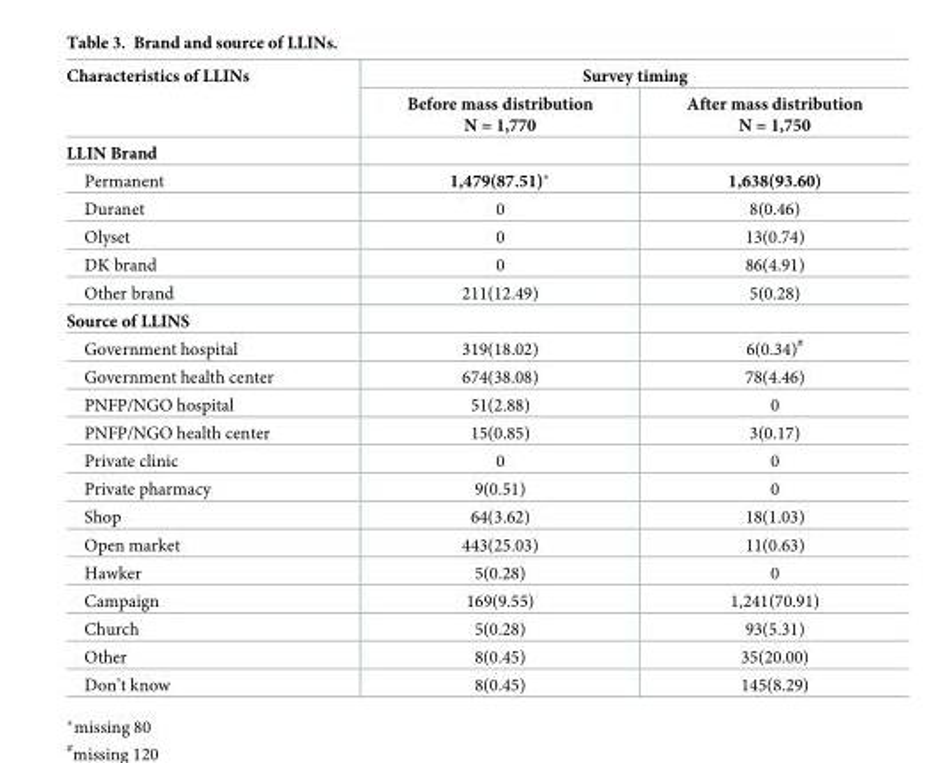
<table><thead><tr><td rowspan="2">Characteristics of LLINs</td><td colspan="2">Survey timing</td></tr><tr><td>Before mass distribution N = 1,770</td><td>After mass distribution N = 1,750</td></tr></thead><tbody><tr><td colspan="3">LLIN Brand</td></tr><tr><td>Permanent</td><td>1,479(87.51)*</td><td>1,638(93.60)</td></tr><tr><td>Duranet</td><td>0</td><td>8(0.46)</td></tr><tr><td>Olyset</td><td>0</td><td>13(0.74)</td></tr><tr><td>DK brand</td><td>0</td><td>86(4.91)</td></tr><tr><td>Other brand</td><td>211(12.49)</td><td>5(0.28)</td></tr><tr><td colspan="3">Source of LLINS</td></tr><tr><td>Government hospital</td><td>319(18.02)</td><td>6(0.34)<sup>#</sup></td></tr><tr><td>Government health center</td><td>674(38.08)</td><td>78(4.46)</td></tr><tr><td>PNFP/NGO hospital</td><td>51(2.88)</td><td>0</td></tr><tr><td>PNFP/NGO health center</td><td>15(0.85)</td><td>3(0.17)</td></tr><tr><td>Private clinic</td><td>0</td><td>0</td></tr><tr><td>Private pharmacy</td><td>9(0.51)</td><td>0</td></tr><tr><td>Shop</td><td>64(3.62)</td><td>18(1.03)</td></tr><tr><td>Open market</td><td>443(25.03)</td><td>11(0.63)</td></tr><tr><td>Hawker</td><td>5(0.28)</td><td>0</td></tr><tr><td>Campaign</td><td>169(9.55)</td><td>1,241(70.91)</td></tr><tr><td>Church</td><td>5(0.28)</td><td>93(5.31)</td></tr><tr><td>Other</td><td>8(0.45)</td><td>35(20.00)</td></tr><tr><td>Don’t know</td><td>8(0.45)</td><td>145(8.29)</td></tr></tbody></table>